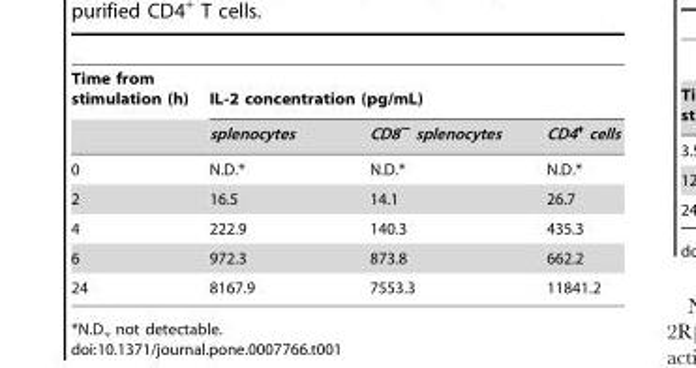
<table><thead><tr><td rowspan="2">Time from stimulation (h)</td><td colspan="3">IL-2 concentration (pg/mL)</td></tr><tr><td>splenocytes</td><td>CD8<sup>−</sup> splenocytes</td><td>CD4<sup>+</sup> cells</td></tr></thead><tbody><tr><td>0</td><td>N.D.*</td><td>N.D.*</td><td>N.D.*</td></tr><tr><td>2</td><td>16.5</td><td>14.1</td><td>26.7</td></tr><tr><td>4</td><td>222.9</td><td>140.3</td><td>435.3</td></tr><tr><td>6</td><td>972.3</td><td>873.8</td><td>662.2</td></tr><tr><td>24</td><td>8167.9</td><td>7553.3</td><td>11841.2</td></tr></tbody></table>